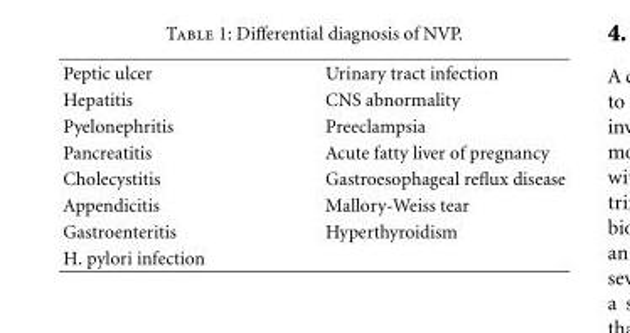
<table><tbody><tr><td>Peptic ulcer</td><td>Urinary tract infection</td></tr><tr><td>Hepatitis</td><td>CNS abnormality</td></tr><tr><td>Pyelonephritis</td><td>Preeclampsia</td></tr><tr><td>Pancreatitis</td><td>Acute fatty liver of pregnancy</td></tr><tr><td>Cholecystitis</td><td>Gastroesophageal reflux disease</td></tr><tr><td>Appendicitis</td><td>Mallory-Weiss tear</td></tr><tr><td>Gastroenteritis</td><td>Hyperthyroidism</td></tr><tr><td>H. pylori infection</td><td></td></tr></tbody></table>